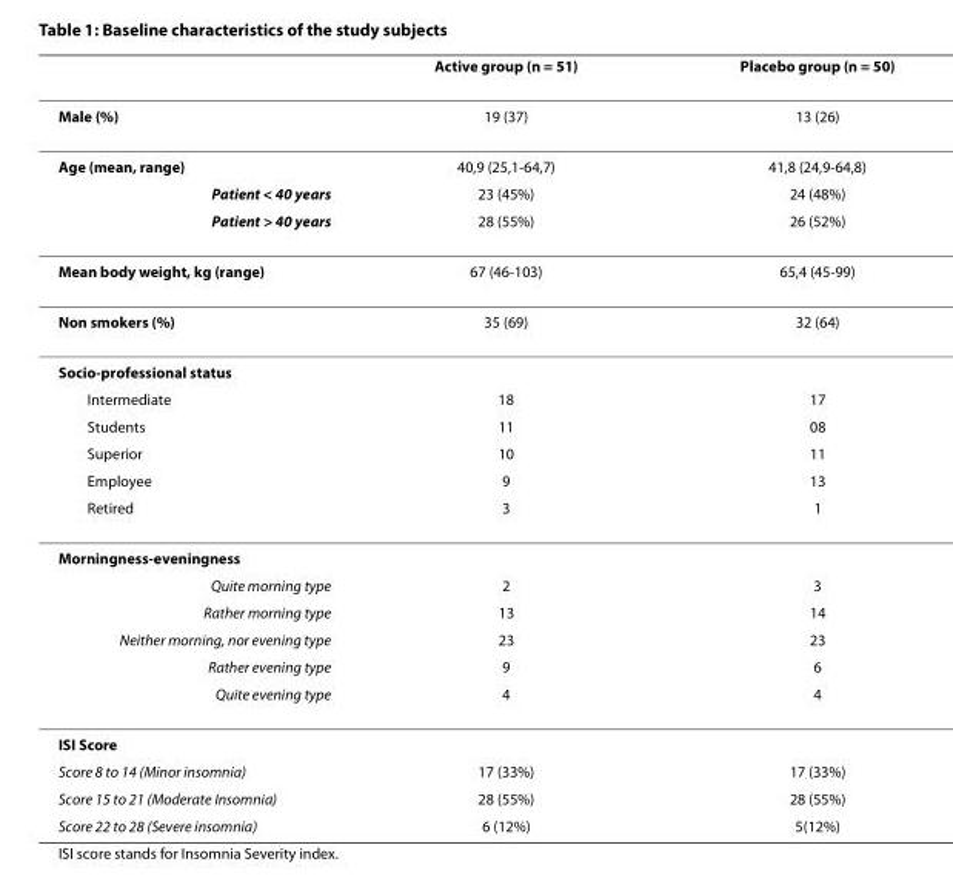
<table><thead><tr><td></td><td>Active group (n = 51)</td><td>Placebo group (n = 50)</td></tr></thead><tbody><tr><td>Male (%)</td><td>19 (37)</td><td>13 (26)</td></tr><tr><td>Age (mean, range)</td><td>40,9 (25,1-64,7)</td><td>41,8 (24,9-64,8)</td></tr><tr><td>Patient &lt; 40 years</td><td>23 (45%)</td><td>24 (48%)</td></tr><tr><td>Patient &gt; 40 years</td><td>28 (55%)</td><td>26 (52%)</td></tr><tr><td>Mean body weight, kg (range)</td><td>67 (46-103)</td><td>65,4 (45-99)</td></tr><tr><td>Non smokers (%)</td><td>35 (69)</td><td>32 (64)</td></tr><tr><td colspan="3">Socio-professional status</td></tr><tr><td>Intermediate</td><td>18</td><td>17</td></tr><tr><td>Students</td><td>11</td><td>08</td></tr><tr><td>Superior</td><td>10</td><td>11</td></tr><tr><td>Employee</td><td>9</td><td>13</td></tr><tr><td>Retired</td><td>3</td><td>1</td></tr><tr><td colspan="3">Morningness-eveningness</td></tr><tr><td>Quite morning type</td><td>2</td><td>3</td></tr><tr><td>Rather morning type</td><td>13</td><td>14</td></tr><tr><td>Neither morning, nor evening type</td><td>23</td><td>23</td></tr><tr><td>Rather evening type</td><td>9</td><td>6</td></tr><tr><td>Quite evening type</td><td>4</td><td>4</td></tr><tr><td colspan="3">ISI Score</td></tr><tr><td>Score 8 to 14 (Minor insomnia)</td><td>17 (33%)</td><td>17 (33%)</td></tr><tr><td>Score 15 to 21 (Moderate Insomnia)</td><td>28 (55%)</td><td>28 (55%)</td></tr><tr><td>Score 22 to 28 (Severe insomnia)</td><td>6 (12%)</td><td>5(12%)</td></tr></tbody></table>